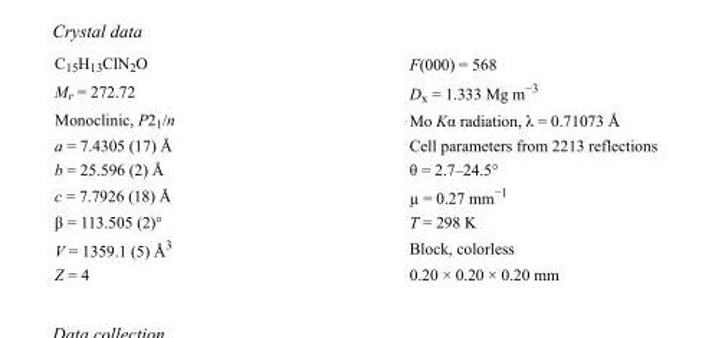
<table><tbody><tr><td>C<sub>15</sub>H<sub>13</sub>ClN<sub>2</sub>O</td><td>F(000) = 568</td></tr><tr><td>M<sub>r</sub> = 272.72</td><td>D<sub>x</sub> = 1.333 Mg m<sup>−3</sup></td></tr><tr><td>Monoclinic, P2<sub>1</sub>/n</td><td>Mo Kα radiation, λ = 0.71073 Å</td></tr><tr><td>a = 7.4305 (17) Å</td><td>Cell parameters from 2213 reflections</td></tr><tr><td>b = 25.596 (2) Å</td><td>θ = 2.7–24.5°</td></tr><tr><td>c = 7.7926 (18) Å</td><td>µ = 0.27 mm<sup>−1</sup></td></tr><tr><td>β = 113.505 (2)°</td><td>T = 298 K</td></tr><tr><td>V = 1359.1 (5) Å<sup>3</sup></td><td>Block, colorless</td></tr><tr><td>Z = 4</td><td>0.20 × 0.20 × 0.20 mm</td></tr></tbody></table>